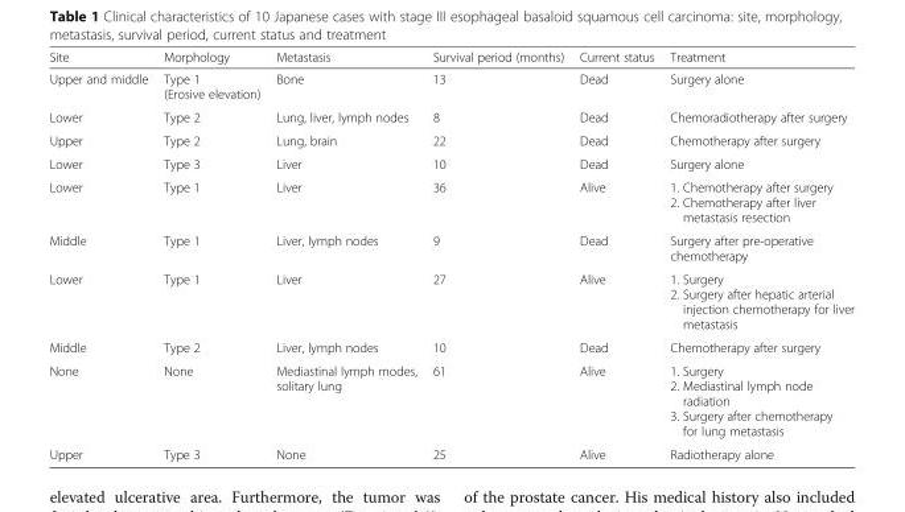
<table><thead><tr><td>Site</td><td>Morphology</td><td>Metastasis</td><td>Survival period (months)</td><td>Current status</td><td>Treatment</td></tr></thead><tbody><tr><td>Upper and middle</td><td>Type 1 (Erosive elevation)</td><td>Bone</td><td>13</td><td>Dead</td><td>Surgery alone</td></tr><tr><td>Lower</td><td>Type 2</td><td>Lung, liver, lymph nodes</td><td>8</td><td>Dead</td><td>Chemoradiotherapy after surgery</td></tr><tr><td>Upper</td><td>Type 2</td><td>Lung, brain</td><td>22</td><td>Dead</td><td>Chemotherapy after surgery</td></tr><tr><td>Lower</td><td>Type 3</td><td>Liver</td><td>10</td><td>Dead</td><td>Surgery alone</td></tr><tr><td>Lower</td><td>Type 1</td><td>Liver</td><td>36</td><td>Alive</td><td>1. Chemotherapy after surgery 2. Chemotherapy after liver metastasis resection</td></tr><tr><td>Middle</td><td>Type 1</td><td>Liver, lymph nodes</td><td>9</td><td>Dead</td><td>Surgery after pre-operative chemotherapy</td></tr><tr><td>Lower</td><td>Type 1</td><td>Liver</td><td>27</td><td>Alive</td><td>1. Surgery 2. Surgery after hepatic arterial injection chemotherapy for liver metastasis</td></tr><tr><td>Middle</td><td>Type 2</td><td>Liver, lymph nodes</td><td>10</td><td>Dead</td><td>Chemotherapy after surgery</td></tr><tr><td>None</td><td>None</td><td>Mediastinal lymph modes, solitary lung</td><td>61</td><td>Alive</td><td>1. Surgery 2. Mediastinal lymph node radiation 3. Surgery after chemotherapy for lung metastasis</td></tr><tr><td>Upper</td><td>Type 3</td><td>None</td><td>25</td><td>Alive</td><td>Radiotherapy alone</td></tr></tbody></table>